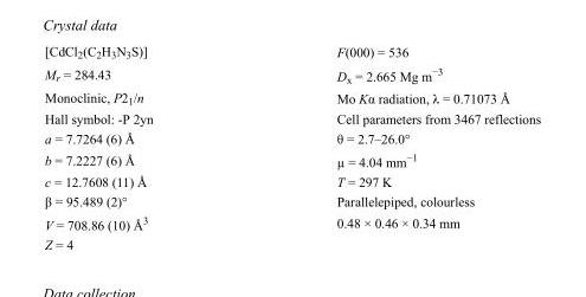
<table><tbody><tr><td>[CdCl<sub>2</sub>(C<sub>2</sub>H<sub>3</sub>N<sub>3</sub>S)]</td><td>F(000) = 536</td></tr><tr><td>M<sub>r</sub> = 284.43</td><td>D<sub>x</sub> = 2.665 Mg m<sup>−3</sup></td></tr><tr><td>Monoclinic, P2<sub>1</sub>/n</td><td>Mo Kα radiation, λ = 0.71073 Å</td></tr><tr><td>Hall symbol: -P 2yn</td><td>Cell parameters from 3467 reflections</td></tr><tr><td>a = 7.7264 (6) Å</td><td>θ = 2.7–26.0°</td></tr><tr><td>b = 7.2227 (6) Å</td><td>µ = 4.04 mm<sup>−1</sup></td></tr><tr><td>c = 12.7608 (11) Å</td><td>T = 297 K</td></tr><tr><td>β = 95.489 (2)°</td><td>Parallelepiped, colourless</td></tr><tr><td>V = 708.86 (10) Å<sup>3</sup></td><td>0.48 × 0.46 × 0.34 mm</td></tr><tr><td>Z = 4</td><td></td></tr></tbody></table>